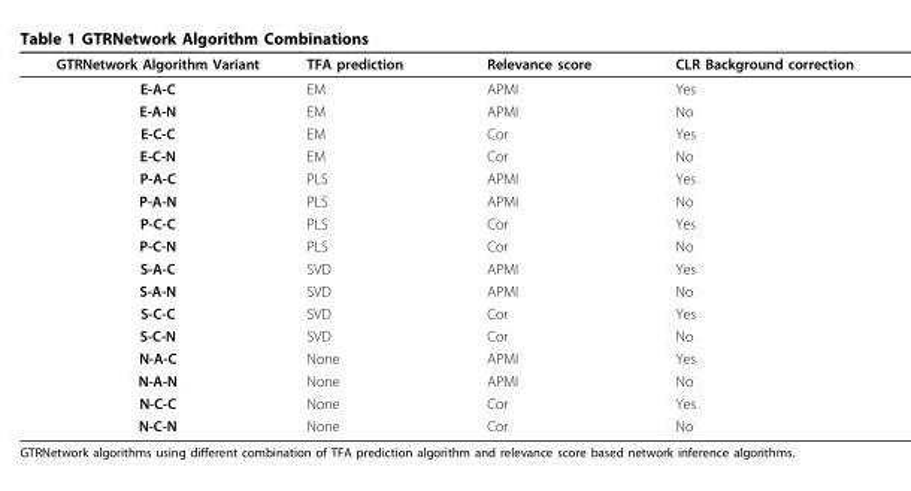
<table><thead><tr><td>GTRNetwork Algorithm Variant</td><td>TFA prediction</td><td>Relevance score</td><td>CLR Background correction</td></tr></thead><tbody><tr><td>E-A-C</td><td>EM</td><td>APMI</td><td>Yes</td></tr><tr><td>E-A-N</td><td>EM</td><td>APMI</td><td>No</td></tr><tr><td>E-C-C</td><td>EM</td><td>Cor</td><td>Yes</td></tr><tr><td>E-C-N</td><td>EM</td><td>Cor</td><td>No</td></tr><tr><td>P-A-C</td><td>PLS</td><td>APMI</td><td>Yes</td></tr><tr><td>P-A-N</td><td>PLS</td><td>APMI</td><td>No</td></tr><tr><td>P-C-C</td><td>PLS</td><td>Cor</td><td>Yes</td></tr><tr><td>P-C-N</td><td>PLS</td><td>Cor</td><td>No</td></tr><tr><td>S-A-C</td><td>SVD</td><td>APMI</td><td>Yes</td></tr><tr><td>S-A-N</td><td>SVD</td><td>APMI</td><td>No</td></tr><tr><td>S-C-C</td><td>SVD</td><td>Cor</td><td>Yes</td></tr><tr><td>S-C-N</td><td>SVD</td><td>Cor</td><td>No</td></tr><tr><td>N-A-C</td><td>None</td><td>APMI</td><td>Yes</td></tr><tr><td>N-A-N</td><td>None</td><td>APMI</td><td>No</td></tr><tr><td>N-C-C</td><td>None</td><td>Cor</td><td>Yes</td></tr><tr><td>N-C-N</td><td>None</td><td>Cor</td><td>No</td></tr></tbody></table>